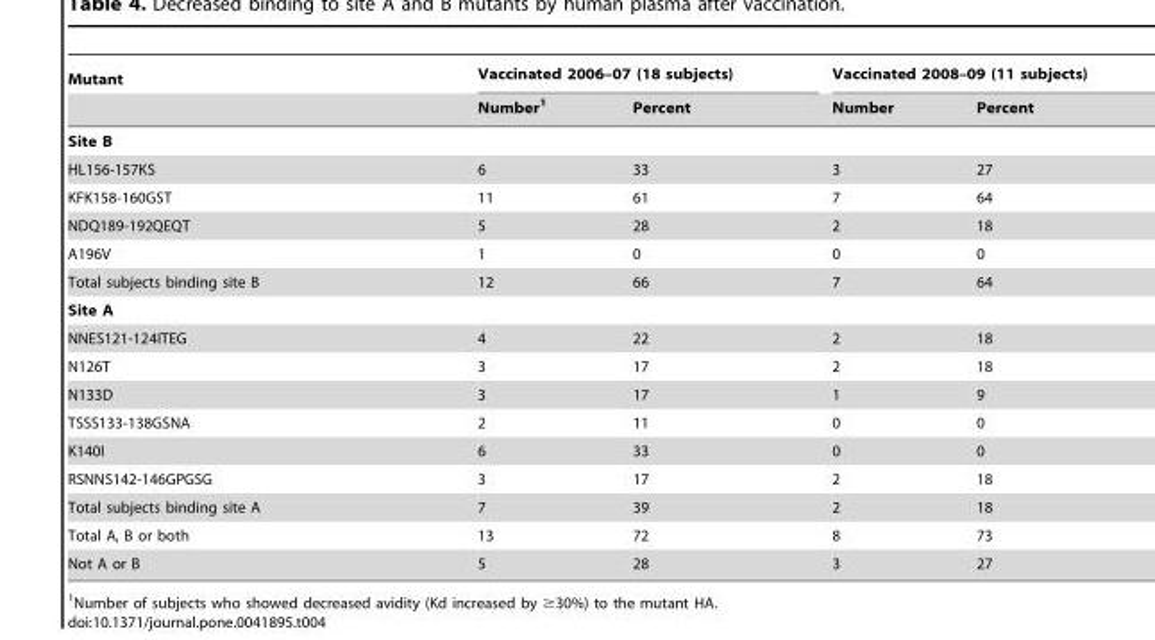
<table><thead><tr><td rowspan="2">Mutant</td><td colspan="2">Vaccinated 2006–07 (18 subjects)</td><td colspan="2">Vaccinated 2008–09 (11 subjects)</td></tr><tr><td>Number<sup>1</sup></td><td>Percent</td><td>Number</td><td>Percent</td></tr></thead><tbody><tr><td colspan="5">Site B</td></tr><tr><td>HL156-157KS</td><td>6</td><td>33</td><td>3</td><td>27</td></tr><tr><td>KFK158-160GST</td><td>11</td><td>61</td><td>7</td><td>64</td></tr><tr><td>NDQ189-192QEQT</td><td>5</td><td>28</td><td>2</td><td>18</td></tr><tr><td>A196V</td><td>1</td><td>0</td><td>0</td><td>0</td></tr><tr><td>Total subjects binding site B</td><td>12</td><td>66</td><td>7</td><td>64</td></tr><tr><td colspan="5">Site A</td></tr><tr><td>NNES121-124ITEG</td><td>4</td><td>22</td><td>2</td><td>18</td></tr><tr><td>N126T</td><td>3</td><td>17</td><td>2</td><td>18</td></tr><tr><td>N133D</td><td>3</td><td>17</td><td>1</td><td>9</td></tr><tr><td>TSSS133-138GSNA</td><td>2</td><td>11</td><td>0</td><td>0</td></tr><tr><td>K140I</td><td>6</td><td>33</td><td>0</td><td>0</td></tr><tr><td>RSNNS142-146GPGSG</td><td>3</td><td>17</td><td>2</td><td>18</td></tr><tr><td>Total subjects binding site A</td><td>7</td><td>39</td><td>2</td><td>18</td></tr><tr><td>Total A, B or both</td><td>13</td><td>72</td><td>8</td><td>73</td></tr><tr><td>Not A or B</td><td>5</td><td>28</td><td>3</td><td>27</td></tr></tbody></table>